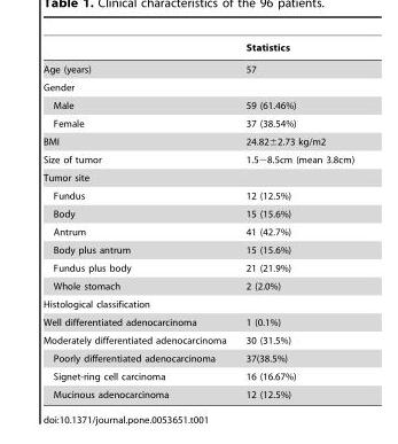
<table><thead><tr><td></td><td>Statistics</td></tr></thead><tbody><tr><td>Age (years)</td><td>57</td></tr><tr><td colspan="2">Gender</td></tr><tr><td>Male</td><td>59 (61.46%)</td></tr><tr><td>Female</td><td>37 (38.54%)</td></tr><tr><td>BMI</td><td>24.82±2.73 kg/m2</td></tr><tr><td>Size of tumor</td><td>1.5∼8.5cm (mean 3.8cm)</td></tr><tr><td colspan="2">Tumor site</td></tr><tr><td>Fundus</td><td>12 (12.5%)</td></tr><tr><td>Body</td><td>15 (15.6%)</td></tr><tr><td>Antrum</td><td>41 (42.7%)</td></tr><tr><td>Body plus antrum</td><td>15 (15.6%)</td></tr><tr><td>Fundus plus body</td><td>21 (21.9%)</td></tr><tr><td>Whole stomach</td><td>2 (2.0%)</td></tr><tr><td colspan="2">Histological classification</td></tr><tr><td>Well differentiated adenocarcinoma</td><td>1 (0.1%)</td></tr><tr><td>Moderately differentiated adenocarcinoma</td><td>30 (31.5%)</td></tr><tr><td>Poorly differentiated adenocarcinoma</td><td>37(38.5%)</td></tr><tr><td>Signet-ring cell carcinoma</td><td>16 (16.67%)</td></tr><tr><td>Mucinous adenocarcinoma</td><td>12 (12.5%)</td></tr></tbody></table>